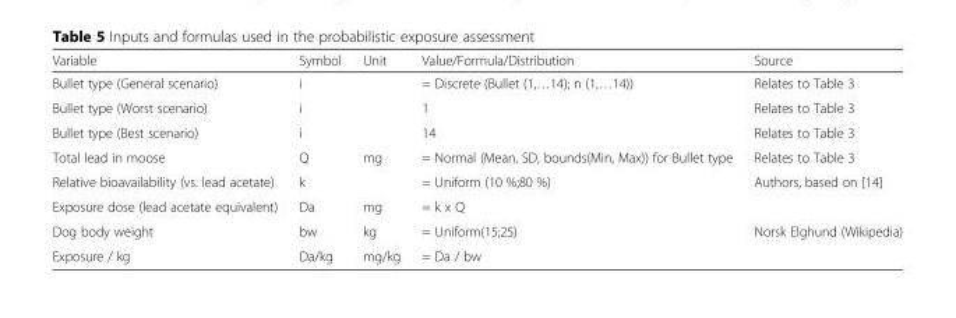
<table><thead><tr><td>Variable</td><td>Symbol</td><td>Unit</td><td>Value/Formula/Distribution</td><td>Source</td></tr></thead><tbody><tr><td>Bullet type (General scenario)</td><td>i</td><td></td><td>= Discrete (Bullet (1,…14); n (1,…14))</td><td>Relates to Table 3</td></tr><tr><td>Bullet type (Worst scenario)</td><td>i</td><td></td><td>1</td><td>Relates to Table 3</td></tr><tr><td>Bullet type (Best scenario)</td><td>i</td><td></td><td>14</td><td>Relates to Table 3</td></tr><tr><td>Total lead in moose</td><td>Q</td><td>mg</td><td>= Normal (Mean, SD, bounds(Min, Max)) for Bullet type</td><td>Relates to Table 3</td></tr><tr><td>Relative bioavailability (vs. lead acetate)</td><td>k</td><td></td><td>= Uniform (10 %;80 %)</td><td>Authors, based on [14]</td></tr><tr><td>Exposure dose (lead acetate equivalent)</td><td>Da</td><td>mg</td><td>= k x Q</td><td></td></tr><tr><td>Dog body weight</td><td>bw</td><td>kg</td><td>= Uniform(15;25)</td><td>Norsk Elghund (Wikipedia)</td></tr><tr><td>Exposure / kg</td><td>Da/kg</td><td>mg/kg</td><td>= Da / bw</td><td></td></tr></tbody></table>